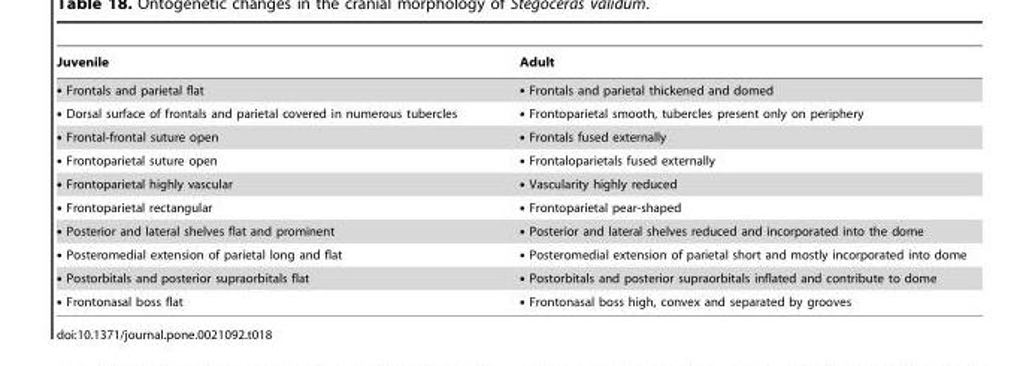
<table><thead><tr><td>Juvenile</td><td>Adult</td></tr></thead><tbody><tr><td>• Frontals and parietal flat</td><td>• Frontals and parietal thickened and domed</td></tr><tr><td>• Dorsal surface of frontals and parietal covered in numerous tubercles</td><td>• Frontoparietal smooth, tubercles present only on periphery</td></tr><tr><td>• Frontal-frontal suture open</td><td>• Frontals fused externally</td></tr><tr><td>• Frontoparietal suture open</td><td>• Frontaloparietals fused externally</td></tr><tr><td>• Frontoparietal highly vascular</td><td>• Vascularity highly reduced</td></tr><tr><td>• Frontoparietal rectangular</td><td>• Frontoparietal pear-shaped</td></tr><tr><td>• Posterior and lateral shelves flat and prominent</td><td>• Posterior and lateral shelves reduced and incorporated into the dome</td></tr><tr><td>• Posteromedial extension of parietal long and flat</td><td>• Posteromedial extension of parietal short and mostly incorporated into dome</td></tr><tr><td>• Postorbitals and posterior supraorbitals flat</td><td>• Postorbitals and posterior supraorbitals inflated and contribute to dome</td></tr><tr><td>• Frontonasal boss flat</td><td>• Frontonasal boss high, convex and separated by grooves</td></tr></tbody></table>